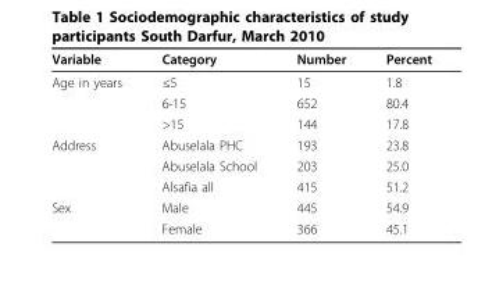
<table><thead><tr><td>Variable</td><td>Category</td><td>Number</td><td>Percent</td></tr></thead><tbody><tr><td rowspan="3">Age in years</td><td>≤5</td><td>15</td><td>1.8</td></tr><tr><td>6-15</td><td>652</td><td>80.4</td></tr><tr><td>&gt;15</td><td>144</td><td>17.8</td></tr><tr><td rowspan="3">Address</td><td>Abuselala PHC</td><td>193</td><td>23.8</td></tr><tr><td>Abuselala School</td><td>203</td><td>25.0</td></tr><tr><td>Alsafia all</td><td>415</td><td>51.2</td></tr><tr><td rowspan="2">Sex</td><td>Male</td><td>445</td><td>54.9</td></tr><tr><td>Female</td><td>366</td><td>45.1</td></tr></tbody></table>